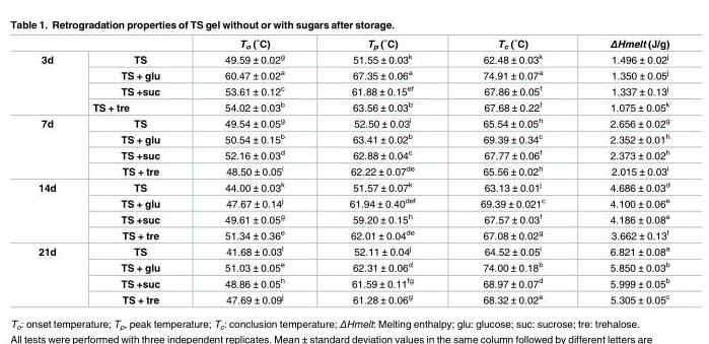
<table><thead><tr><td></td><td></td><td>To (˚C)</td><td>Tp (˚C)</td><td>Tc (˚C)</td><td>ΔHmelt (J/g)</td></tr></thead><tbody><tr><td rowspan="4">3d</td><td>TS</td><td>49.59 ± 0.02<sup>g</sup></td><td>51.55 ± 0.03<sup>k</sup></td><td>62.48 ± 0.03<sup>k</sup></td><td>1.496 ± 0.02<sup>j</sup></td></tr><tr><td>TS + glu</td><td>60.47 ± 0.02<sup>a</sup></td><td>67.35 ± 0.06<sup>a</sup></td><td>74.91 ± 0.07<sup>a</sup></td><td>1.350 ± 0.05<sup>j</sup></td></tr><tr><td>TS +suc</td><td>53.61 ± 0.12<sup>c</sup></td><td>61.88 ± 0.15<sup>ef</sup></td><td>67.86 ± 0.05<sup>f</sup></td><td>1.337 ± 0.13<sup>j</sup></td></tr><tr><td>TS + tre</td><td>54.02 ± 0.03<sup>b</sup></td><td>63.56 ± 0.03<sup>b</sup></td><td>67.68 ± 0.22<sup>f</sup></td><td>1.075 ± 0.05<sup>k</sup></td></tr><tr><td rowspan="4">7d</td><td>TS</td><td>49.54 ± 0.05<sup>g</sup></td><td>52.50 ± 0.03<sup>i</sup></td><td>65.54 ± 0.05<sup>h</sup></td><td>2.656 ± 0.02<sup>g</sup></td></tr><tr><td>TS + glu</td><td>50.54 ± 0.15<sup>b</sup></td><td>63.41 ± 0.02<sup>b</sup></td><td>69.39 ± 0.34<sup>c</sup></td><td>2.352 ± 0.01<sup>h</sup></td></tr><tr><td>TS +suc</td><td>52.16 ± 0.03<sup>d</sup></td><td>62.88 ± 0.04<sup>c</sup></td><td>67.77 ± 0.06<sup>f</sup></td><td>2.373 ± 0.02<sup>h</sup></td></tr><tr><td>TS + tre</td><td>48.50 ± 0.05<sup>i</sup></td><td>62.22 ± 0.07<sup>de</sup></td><td>65.56 ± 0.02<sup>h</sup></td><td>2.015 ± 0.03<sup>i</sup></td></tr><tr><td rowspan="4">14d</td><td>TS</td><td>44.00 ± 0.03<sup>k</sup></td><td>51.57 ± 0.07<sup>k</sup></td><td>63.13 ± 0.01<sup>j</sup></td><td>4.686 ± 0.03<sup>d</sup></td></tr><tr><td>TS + glu</td><td>47.67 ± 0.14<sup>j</sup></td><td>61.94 ± 0.40<sup>def</sup></td><td>69.39 ± 0.021<sup>c</sup></td><td>4.100 ± 0.06<sup>e</sup></td></tr><tr><td>TS +suc</td><td>49.61 ± 0.05<sup>g</sup></td><td>59.20 ± 0.15<sup>h</sup></td><td>67.57 ± 0.03<sup>f</sup></td><td>4.186 ± 0.08<sup>e</sup></td></tr><tr><td>TS + tre</td><td>51.34 ± 0.36<sup>e</sup></td><td>62.01 ± 0.04<sup>de</sup></td><td>67.08 ± 0.02<sup>g</sup></td><td>3.662 ± 0.13<sup>f</sup></td></tr><tr><td rowspan="4">21d</td><td>TS</td><td>41.68 ± 0.03<sup>l</sup></td><td>52.11 ± 0.04<sup>j</sup></td><td>64.52 ± 0.05<sup>i</sup></td><td>6.821 ± 0.08<sup>a</sup></td></tr><tr><td>TS + glu</td><td>51.03 ± 0.05<sup>e</sup></td><td>62.31 ± 0.06<sup>d</sup></td><td>74.00 ± 0.18<sup>b</sup></td><td>5.850 ± 0.03<sup>b</sup></td></tr><tr><td>TS +suc</td><td>48.86 ± 0.05<sup>h</sup></td><td>61.59 ± 0.11<sup>fg</sup></td><td>68.97 ± 0.07<sup>d</sup></td><td>5.999 ± 0.05<sup>b</sup></td></tr><tr><td>TS + tre</td><td>47.69 ± 0.09<sup>j</sup></td><td>61.28 ± 0.06<sup>g</sup></td><td>68.32 ± 0.02<sup>e</sup></td><td>5.305 ± 0.05<sup>c</sup></td></tr></tbody></table>